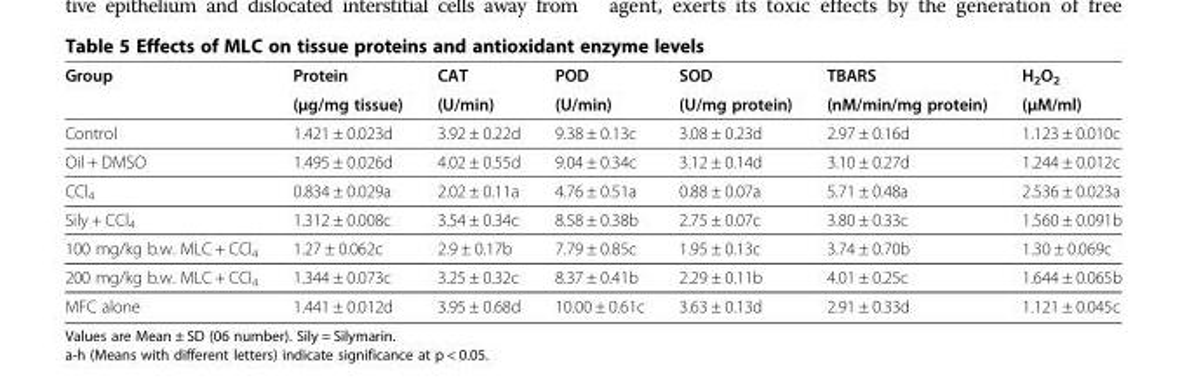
<table><thead><tr><td rowspan="2">Group</td><td rowspan="2">Protein (μg/mg tissue)</td><td rowspan="2">CAT (U/min)</td><td rowspan="2">POD (U/min)</td><td rowspan="2">SOD (U/mg protein)</td><td rowspan="2">TBARS (nM/min/mg protein)</td><td rowspan="2">H<sub>2</sub>O<sub>2</sub> (μM/ml)</td></tr><tr></tr></thead><tbody><tr><td>Control</td><td>1.421 ± 0.023d</td><td>3.92 ± 0.22d</td><td>9.38 ± 0.13c</td><td>3.08 ± 0.23d</td><td>2.97 ± 0.16d</td><td>1.123 ± 0.010c</td></tr><tr><td>Oil + DMSO</td><td>1.495 ± 0.026d</td><td>4.02 ± 0.55d</td><td>9.04 ± 0.34c</td><td>3.12 ± 0.14d</td><td>3.10 ± 0.27d</td><td>1.244 ± 0.012c</td></tr><tr><td>CCl<sub>4</sub></td><td>0.834 ± 0.029a</td><td>2.02 ± 0.11a</td><td>4.76 ± 0.51a</td><td>0.88 ± 0.07a</td><td>5.71 ± 0.48a</td><td>2.536 ± 0.023a</td></tr><tr><td>Sily + CCl<sub>4</sub></td><td>1.312 ± 0.008c</td><td>3.54 ± 0.34c</td><td>8.58 ± 0.38b</td><td>2.75 ± 0.07c</td><td>3.80 ± 0.33c</td><td>1.560 ± 0.091b</td></tr><tr><td>100 mg/kg b.w. MLC + CCl<sub>4</sub></td><td>1.27 ± 0.062c</td><td>2.9 ± 0.17b</td><td>7.79 ± 0.85c</td><td>1.95 ± 0.13c</td><td>3.74 ± 0.70b</td><td>1.30 ± 0.069c</td></tr><tr><td>200 mg/kg b.w. MLC + CCl<sub>4</sub></td><td>1.344 ± 0.073c</td><td>3.25 ± 0.32c</td><td>8.37 ± 0.41b</td><td>2.29 ± 0.11b</td><td>4.01 ± 0.25c</td><td>1.644 ± 0.065b</td></tr><tr><td>MFC alone</td><td>1.441 ± 0.012d</td><td>3.95 ± 0.68d</td><td>10.00 ± 0.61c</td><td>3.63 ± 0.13d</td><td>2.91 ± 0.33d</td><td>1.121 ± 0.045c</td></tr></tbody></table>